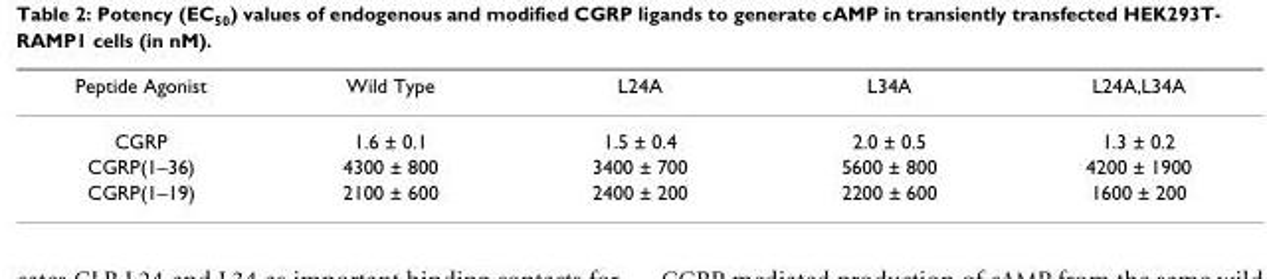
<table><thead><tr><td>Peptide Agonist</td><td>Wild Type</td><td>L24A</td><td>L34A</td><td>L24A,L34A</td></tr></thead><tbody><tr><td>CGRP</td><td>1.6 ± 0.1</td><td>1.5 ± 0.4</td><td>2.0 ± 0.5</td><td>1.3 ± 0.2</td></tr><tr><td>CGRP(1–36)</td><td>4300 ± 800</td><td>3400 ± 700</td><td>5600 ± 800</td><td>4200 ± 1900</td></tr><tr><td>CGRP(1–19)</td><td>2100 ± 600</td><td>2400 ± 200</td><td>2200 ± 600</td><td>1600 ± 200</td></tr></tbody></table>